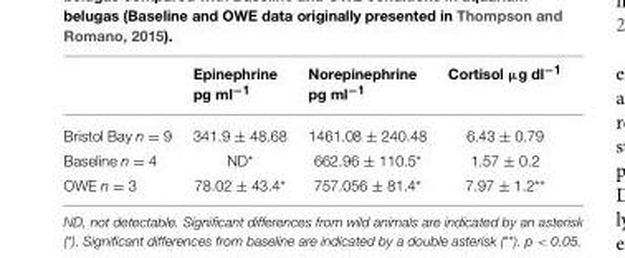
<table><thead><tr><td></td><td>Epinephrine pg ml<sup>−1</sup></td><td>Norepinephrine pg ml<sup>−1</sup></td><td>Cortisol µg dl<sup>−1</sup></td></tr></thead><tbody><tr><td>Bristol Bay n = 9</td><td>341.9 ± 48.68</td><td>1461.08 ± 240.48</td><td>6.43 ± 0.79</td></tr><tr><td>Baseline n = 4</td><td>ND*</td><td>662.96 ± 110.5*</td><td>1.57 ± 0.2</td></tr><tr><td>OWE n = 3</td><td>78.02 ± 43.4*</td><td>757.056 ± 81.4*</td><td>7.97 ± 1.2**</td></tr></tbody></table>